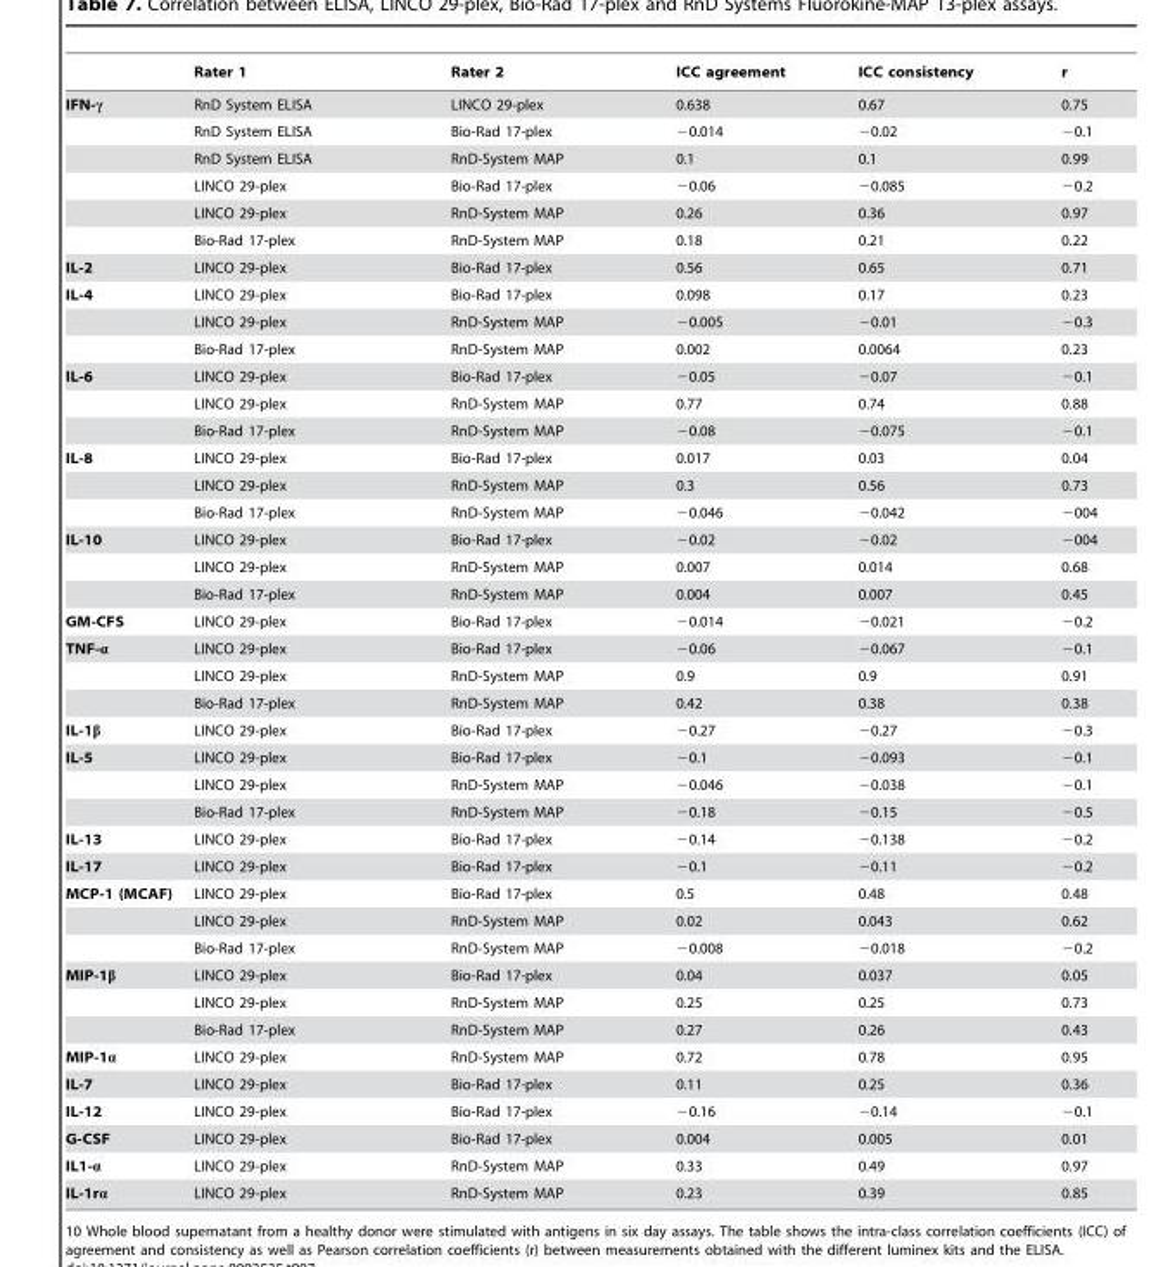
<table><thead><tr><td></td><td>Rater 1</td><td>Rater 2</td><td>ICC agreement</td><td>ICC consistency</td><td>r</td></tr></thead><tbody><tr><td rowspan="6">IFN-γ</td><td>RnD System ELISA</td><td>LINCO 29-plex</td><td>0.638</td><td>0.67</td><td>0.75</td></tr><tr><td>RnD System ELISA</td><td>Bio-Rad 17-plex</td><td>−0.014</td><td>−0.02</td><td>−0.1</td></tr><tr><td>RnD System ELISA</td><td>RnD-System MAP</td><td>0.1</td><td>0.1</td><td>0.99</td></tr><tr><td>LINCO 29-plex</td><td>Bio-Rad 17-plex</td><td>−0.06</td><td>−0.085</td><td>−0.2</td></tr><tr><td>LINCO 29-plex</td><td>RnD-System MAP</td><td>0.26</td><td>0.36</td><td>0.97</td></tr><tr><td>Bio-Rad 17-plex</td><td>RnD-System MAP</td><td>0.18</td><td>0.21</td><td>0.22</td></tr><tr><td>IL-2</td><td>LINCO 29-plex</td><td>Bio-Rad 17-plex</td><td>0.56</td><td>0.65</td><td>0.71</td></tr><tr><td rowspan="3">IL-4</td><td>LINCO 29-plex</td><td>Bio-Rad 17-plex</td><td>0.098</td><td>0.17</td><td>0.23</td></tr><tr><td>LINCO 29-plex</td><td>RnD-System MAP</td><td>−0.005</td><td>−0.01</td><td>−0.3</td></tr><tr><td>Bio-Rad 17-plex</td><td>RnD-System MAP</td><td>0.002</td><td>0.0064</td><td>0.23</td></tr><tr><td rowspan="3">IL-6</td><td>LINCO 29-plex</td><td>Bio-Rad 17-plex</td><td>−0.05</td><td>−0.07</td><td>−0.1</td></tr><tr><td>LINCO 29-plex</td><td>RnD-System MAP</td><td>0.77</td><td>0.74</td><td>0.88</td></tr><tr><td>Bio-Rad 17-plex</td><td>RnD-System MAP</td><td>−0.08</td><td>−0.075</td><td>−0.1</td></tr><tr><td rowspan="3">IL-8</td><td>LINCO 29-plex</td><td>Bio-Rad 17-plex</td><td>0.017</td><td>0.03</td><td>0.04</td></tr><tr><td>LINCO 29-plex</td><td>RnD-System MAP</td><td>0.3</td><td>0.56</td><td>0.73</td></tr><tr><td>Bio-Rad 17-plex</td><td>RnD-System MAP</td><td>−0.046</td><td>−0.042</td><td>−004</td></tr><tr><td rowspan="3">IL-10</td><td>LINCO 29-plex</td><td>Bio-Rad 17-plex</td><td>−0.02</td><td>−0.02</td><td>−004</td></tr><tr><td>LINCO 29-plex</td><td>RnD-System MAP</td><td>0.007</td><td>0.014</td><td>0.68</td></tr><tr><td>Bio-Rad 17-plex</td><td>RnD-System MAP</td><td>0.004</td><td>0.007</td><td>0.45</td></tr><tr><td>GM-CFS</td><td>LINCO 29-plex</td><td>Bio-Rad 17-plex</td><td>−0.014</td><td>−0.021</td><td>−0.2</td></tr><tr><td rowspan="3">TNF-α</td><td>LINCO 29-plex</td><td>Bio-Rad 17-plex</td><td>−0.06</td><td>−0.067</td><td>−0.1</td></tr><tr><td>LINCO 29-plex</td><td>RnD-System MAP</td><td>0.9</td><td>0.9</td><td>0.91</td></tr><tr><td>Bio-Rad 17-plex</td><td>RnD-System MAP</td><td>0.42</td><td>0.38</td><td>0.38</td></tr><tr><td>IL-1β</td><td>LINCO 29-plex</td><td>Bio-Rad 17-plex</td><td>−0.27</td><td>−0.27</td><td>−0.3</td></tr><tr><td rowspan="3">IL-5</td><td>LINCO 29-plex</td><td>Bio-Rad 17-plex</td><td>−0.1</td><td>−0.093</td><td>−0.1</td></tr><tr><td>LINCO 29-plex</td><td>RnD-System MAP</td><td>−0.046</td><td>−0.038</td><td>−0.1</td></tr><tr><td>Bio-Rad 17-plex</td><td>RnD-System MAP</td><td>−0.18</td><td>−0.15</td><td>−0.5</td></tr><tr><td>IL-13</td><td>LINCO 29-plex</td><td>Bio-Rad 17-plex</td><td>−0.14</td><td>−0.138</td><td>−0.2</td></tr><tr><td>IL-17</td><td>LINCO 29-plex</td><td>Bio-Rad 17-plex</td><td>−0.1</td><td>−0.11</td><td>−0.2</td></tr><tr><td rowspan="3">MCP-1 (MCAF)</td><td>LINCO 29-plex</td><td>Bio-Rad 17-plex</td><td>0.5</td><td>0.48</td><td>0.48</td></tr><tr><td>LINCO 29-plex</td><td>RnD-System MAP</td><td>0.02</td><td>0.043</td><td>0.62</td></tr><tr><td>Bio-Rad 17-plex</td><td>RnD-System MAP</td><td>−0.008</td><td>−0.018</td><td>−0.2</td></tr><tr><td rowspan="3">MIP-1β</td><td>LINCO 29-plex</td><td>Bio-Rad 17-plex</td><td>0.04</td><td>0.037</td><td>0.05</td></tr><tr><td>LINCO 29-plex</td><td>RnD-System MAP</td><td>0.25</td><td>0.25</td><td>0.73</td></tr><tr><td>Bio-Rad 17-plex</td><td>RnD-System MAP</td><td>0.27</td><td>0.26</td><td>0.43</td></tr><tr><td>MIP-1α</td><td>LINCO 29-plex</td><td>RnD-System MAP</td><td>0.72</td><td>0.78</td><td>0.95</td></tr><tr><td>IL-7</td><td>LINCO 29-plex</td><td>Bio-Rad 17-plex</td><td>0.11</td><td>0.25</td><td>0.36</td></tr><tr><td>IL-12</td><td>LINCO 29-plex</td><td>Bio-Rad 17-plex</td><td>−0.16</td><td>−0.14</td><td>−0.1</td></tr><tr><td>G-CSF</td><td>LINCO 29-plex</td><td>Bio-Rad 17-plex</td><td>0.004</td><td>0.005</td><td>0.01</td></tr><tr><td>IL1-α</td><td>LINCO 29-plex</td><td>RnD-System MAP</td><td>0.33</td><td>0.49</td><td>0.97</td></tr><tr><td>IL-1rα</td><td>LINCO 29-plex</td><td>RnD-System MAP</td><td>0.23</td><td>0.39</td><td>0.85</td></tr></tbody></table>